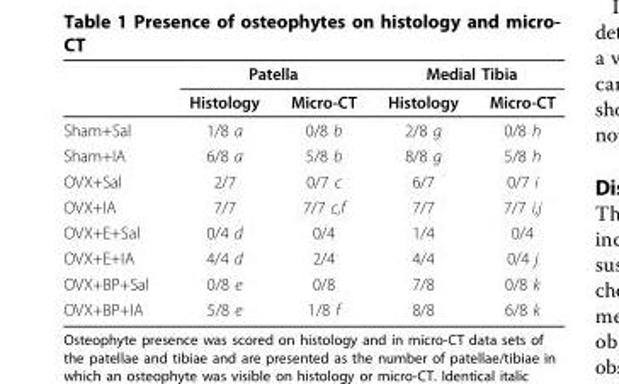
<table><thead><tr><td rowspan="2"></td><td colspan="2">Patella</td><td colspan="2">Medial Tibia</td></tr><tr><td>Histology</td><td>Micro-CT</td><td>Histology</td><td>Micro-CT</td></tr></thead><tbody><tr><td>Sham+Sal</td><td>1/8 a</td><td>0/8 b</td><td>2/8 g</td><td>0/8 h</td></tr><tr><td>Sham+IA</td><td>6/8 a</td><td>5/8 b</td><td>8/8 g</td><td>5/8 h</td></tr><tr><td>OVX+Sal</td><td>2/7</td><td>0/7 c</td><td>6/7</td><td>0/7 i</td></tr><tr><td>OVX+IA</td><td>7/7</td><td>7/7 c,f</td><td>7/7</td><td>7/7 i,j</td></tr><tr><td>OVX+E+Sal</td><td>0/4 d</td><td>0/4</td><td>1/4</td><td>0/4</td></tr><tr><td>OVX+E+IA</td><td>4/4 d</td><td>2/4</td><td>4/4</td><td>0/4 j</td></tr><tr><td>OVX+BP+Sal</td><td>0/8 e</td><td>0/8</td><td>7/8</td><td>0/8 k</td></tr><tr><td>OVX+BP+IA</td><td>5/8 e</td><td>1/8 f</td><td>8/8</td><td>6/8 k</td></tr></tbody></table>